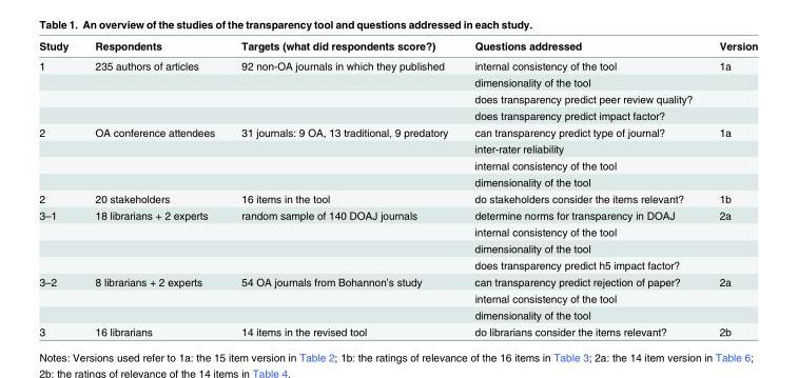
<table><thead><tr><td>Study</td><td>Respondents</td><td>Targets (what did respondents score?)</td><td>Questions addressed</td><td>Version</td></tr></thead><tbody><tr><td rowspan="4">1</td><td>235 authors of articles</td><td>92 non-OA journals in which they published</td><td>internal consistency of the tool</td><td>1a</td></tr><tr><td></td><td></td><td>dimensionality of the tool</td><td></td></tr><tr><td></td><td></td><td>does transparency predict peer review quality?</td><td></td></tr><tr><td></td><td></td><td>does transparency predict impact factor?</td><td></td></tr><tr><td rowspan="4">2</td><td>OA conference attendees</td><td>31 journals: 9 OA, 13 traditional, 9 predatory</td><td>can transparency predict type of journal?</td><td>1a</td></tr><tr><td></td><td></td><td>inter-rater reliability</td><td></td></tr><tr><td></td><td></td><td>internal consistency of the tool</td><td></td></tr><tr><td></td><td></td><td>dimensionality of the tool</td><td></td></tr><tr><td>2</td><td>20 stakeholders</td><td>16 items in the tool</td><td>do stakeholders consider the items relevant?</td><td>1b</td></tr><tr><td rowspan="4">3–1</td><td>18 librarians + 2 experts</td><td>random sample of 140 DOAJ journals</td><td>determine norms for transparency in DOAJ</td><td>2a</td></tr><tr><td></td><td></td><td>internal consistency of the tool</td><td></td></tr><tr><td></td><td></td><td>dimensionality of the tool</td><td></td></tr><tr><td></td><td></td><td>does transparency predict h5 impact factor?</td><td></td></tr><tr><td rowspan="3">3–2</td><td>8 librarians + 2 experts</td><td>54 OA journals from Bohannon’s study</td><td>can transparency predict rejection of paper?</td><td>2a</td></tr><tr><td></td><td></td><td>internal consistency of the tool</td><td></td></tr><tr><td></td><td></td><td>dimensionality of the tool</td><td></td></tr><tr><td>3</td><td>16 librarians</td><td>14 items in the revised tool</td><td>do librarians consider the items relevant?</td><td>2b</td></tr></tbody></table>